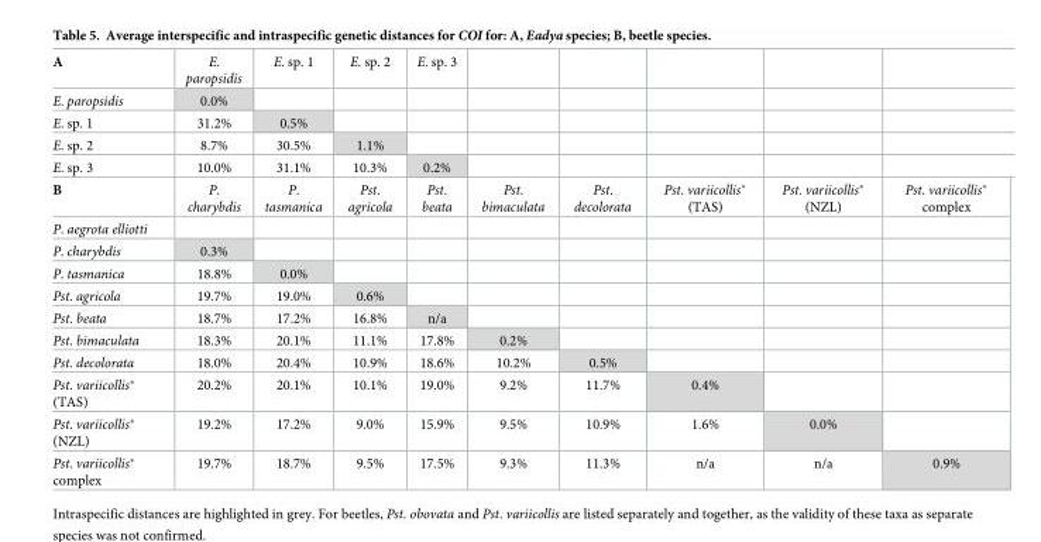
<table><tbody><tr><td>A</td><td>E. paropsidis</td><td>E. sp. 1</td><td>E. sp. 2</td><td>E. sp. 3</td><td></td><td></td><td></td><td></td><td></td></tr><tr><td>E. paropsidis</td><td>0.0%</td><td></td><td></td><td></td><td></td><td></td><td></td><td></td><td></td></tr><tr><td>E. sp. 1</td><td>31.2%</td><td>0.5%</td><td></td><td></td><td></td><td></td><td></td><td></td><td></td></tr><tr><td>E. sp. 2</td><td>8.7%</td><td>30.5%</td><td>1.1%</td><td></td><td></td><td></td><td></td><td></td><td></td></tr><tr><td>E. sp. 3</td><td>10.0%</td><td>31.1%</td><td>10.3%</td><td>0.2%</td><td></td><td></td><td></td><td></td><td></td></tr><tr><td>B</td><td>P. charybdis</td><td>P. tasmanica</td><td>Pst. agricola</td><td>Pst. beata</td><td>Pst. bimaculata</td><td>Pst. decolorata</td><td>Pst. variicollis* (TAS)</td><td>Pst. variicollis* (NZL)</td><td>Pst. variicollis* complex</td></tr><tr><td colspan="10">P. aegrota elliotti</td></tr><tr><td>P. charybdis</td><td>0.3%</td><td></td><td></td><td></td><td></td><td></td><td></td><td></td><td></td></tr><tr><td>P. tasmanica</td><td>18.8%</td><td>0.0%</td><td></td><td></td><td></td><td></td><td></td><td></td><td></td></tr><tr><td>Pst. agricola</td><td>19.7%</td><td>19.0%</td><td>0.6%</td><td></td><td></td><td></td><td></td><td></td><td></td></tr><tr><td>Pst. beata</td><td>18.7%</td><td>17.2%</td><td>16.8%</td><td>n/a</td><td></td><td></td><td></td><td></td><td></td></tr><tr><td>Pst. bimaculata</td><td>18.3%</td><td>20.1%</td><td>11.1%</td><td>17.8%</td><td>0.2%</td><td></td><td></td><td></td><td></td></tr><tr><td>Pst. decolorata</td><td>18.0%</td><td>20.4%</td><td>10.9%</td><td>18.6%</td><td>10.2%</td><td>0.5%</td><td></td><td></td><td></td></tr><tr><td>Pst. variicollis* (TAS)</td><td>20.2%</td><td>20.1%</td><td>10.1%</td><td>19.0%</td><td>9.2%</td><td>11.7%</td><td>0.4%</td><td></td><td></td></tr><tr><td>Pst. variicollis* (NZL)</td><td>19.2%</td><td>17.2%</td><td>9.0%</td><td>15.9%</td><td>9.5%</td><td>10.9%</td><td>1.6%</td><td>0.0%</td><td></td></tr><tr><td>Pst. variicollis* complex</td><td>19.7%</td><td>18.7%</td><td>9.5%</td><td>17.5%</td><td>9.3%</td><td>11.3%</td><td>n/a</td><td>n/a</td><td>0.9%</td></tr></tbody></table>